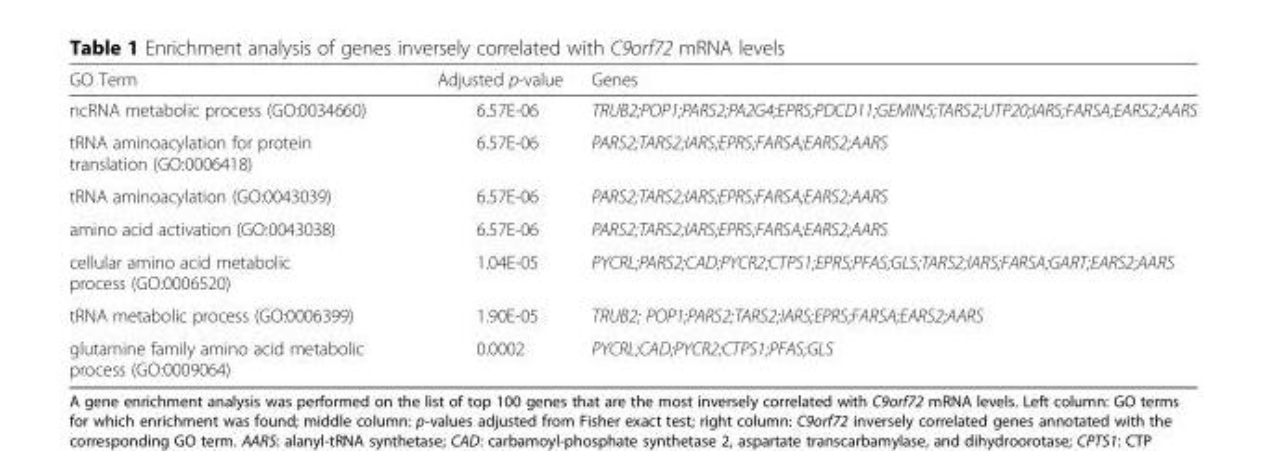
<table><thead><tr><td>GO Term</td><td>Adjusted p-value</td><td>Genes</td></tr></thead><tbody><tr><td>ncRNA metabolic process (GO:0034660)</td><td>6.57E-06</td><td>TRUB2;POP1;PARS2;PA2G4;EPRS;PDCD11;GEMIN5;TARS2;UTP20;IARS;FARSA;EARS2;AARS</td></tr><tr><td>tRNA aminoacylation for protein translation (GO:0006418)</td><td>6.57E-06</td><td>PARS2;TARS2;IARS;EPRS;FARSA;EARS2;AARS</td></tr><tr><td>tRNA aminoacylation (GO:0043039)</td><td>6.57E-06</td><td>PARS2;TARS2;IARS;EPRS;FARSA;EARS2;AARS</td></tr><tr><td>amino acid activation (GO:0043038)</td><td>6.57E-06</td><td>PARS2;TARS2;IARS;EPRS;FARSA;EARS2;AARS</td></tr><tr><td>cellular amino acid metabolic process (GO:0006520)</td><td>1.04E-05</td><td>PYCRL;PARS2;CAD;PYCR2;CTPS1;EPRS;PFAS;GLS;TARS2;IARS;FARSA;GART;EARS2;AARS</td></tr><tr><td>tRNA metabolic process (GO:0006399)</td><td>1.90E-05</td><td>TRUB2; POP1;PARS2;TARS2;IARS;EPRS;FARSA;EARS2;AARS</td></tr><tr><td>glutamine family amino acid metabolic process (GO:0009064)</td><td>0.0002</td><td>PYCRL;CAD;PYCR2;CTPS1;PFAS;GLS</td></tr></tbody></table>